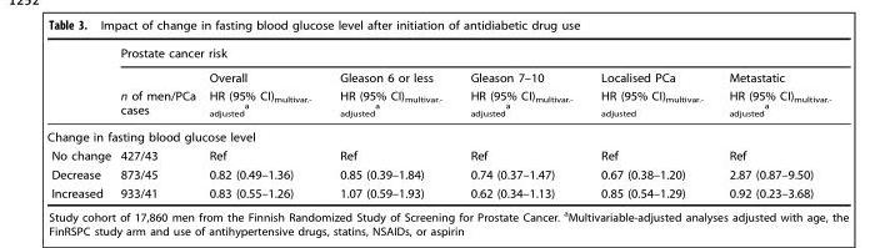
<table><thead><tr><td rowspan="3"></td><td colspan="6">Prostate cancer risk</td></tr><tr><td rowspan="2">n of men/PCa cases</td><td rowspan="2">Overall HR (95% CI)<sub>multivar.- adjusted</sub> <sup>a</sup></td><td rowspan="2">Gleason 6 or less HR (95% CI)<sub>multivar.- adjusted</sub> <sup>a</sup></td><td rowspan="2">Gleason 7–10 HR (95% CI)<sub>multivar.- adjusted</sub> <sup>a</sup></td><td rowspan="2">Localised PCa HR (95% CI)<sub>multivar.- adjusted</sub></td><td rowspan="2">Metastatic HR (95% CI)<sub>multivar.- adjusted</sub> <sup>a</sup></td></tr><tr></tr></thead><tbody><tr><td colspan="7">Change in fasting blood glucose level</td></tr><tr><td>No change</td><td>427/43</td><td>Ref</td><td>Ref</td><td>Ref</td><td>Ref</td><td>Ref</td></tr><tr><td>Decrease</td><td>873/45</td><td>0.82 (0.49–1.36)</td><td>0.85 (0.39–1.84)</td><td>0.74 (0.37–1.47)</td><td>0.67 (0.38–1.20)</td><td>2.87 (0.87–9.50)</td></tr><tr><td>Increased</td><td>933/41</td><td>0.83 (0.55–1.26)</td><td>1.07 (0.59–1.93)</td><td>0.62 (0.34–1.13)</td><td>0.85 (0.54–1.29)</td><td>0.92 (0.23–3.68)</td></tr></tbody></table>